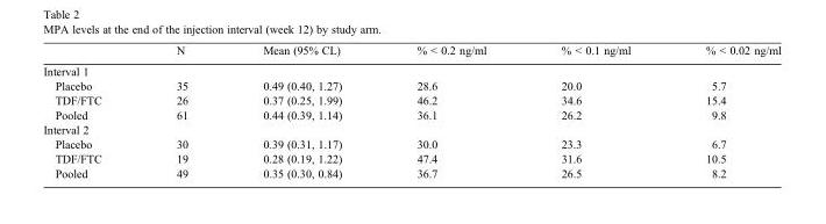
<table><thead><tr><td></td><td>N</td><td>Mean (95% CL)</td><td>% &lt; 0.2 ng/ml</td><td>% &lt; 0.1 ng/ml</td><td>% &lt; 0.02 ng/ml</td></tr></thead><tbody><tr><td colspan="6">Interval 1</td></tr><tr><td>Placebo</td><td>35</td><td>0.49 (0.40, 1.27)</td><td>28.6</td><td>20.0</td><td>5.7</td></tr><tr><td>TDF/FTC</td><td>26</td><td>0.37 (0.25, 1.99)</td><td>46.2</td><td>34.6</td><td>15.4</td></tr><tr><td>Pooled</td><td>61</td><td>0.44 (0.39, 1.14)</td><td>36.1</td><td>26.2</td><td>9.8</td></tr><tr><td colspan="6">Interval 2</td></tr><tr><td>Placebo</td><td>30</td><td>0.39 (0.31, 1.17)</td><td>30.0</td><td>23.3</td><td>6.7</td></tr><tr><td>TDF/FTC</td><td>19</td><td>0.28 (0.19, 1.22)</td><td>47.4</td><td>31.6</td><td>10.5</td></tr><tr><td>Pooled</td><td>49</td><td>0.35 (0.30, 0.84)</td><td>36.7</td><td>26.5</td><td>8.2</td></tr></tbody></table>